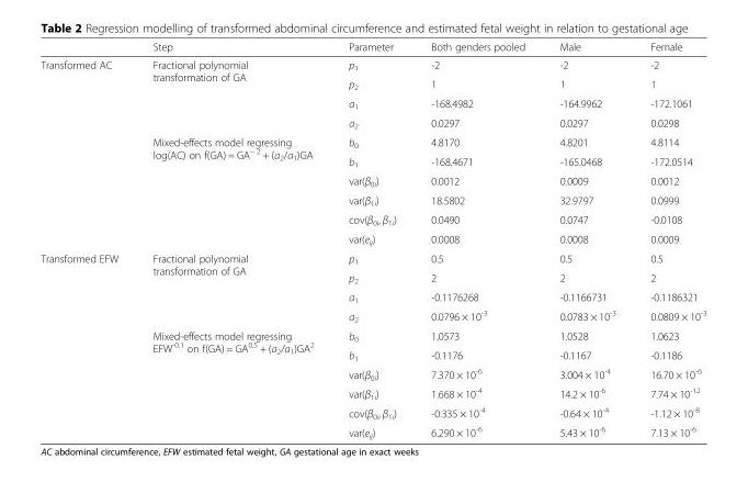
<table><thead><tr><td></td><td>Step</td><td>Parameter</td><td>Both genders pooled</td><td>Male</td><td>Female</td></tr></thead><tbody><tr><td rowspan="10">Transformed AC</td><td rowspan="4">Fractional polynomial transformation of GA</td><td>p<sub>1</sub></td><td>-2</td><td>-2</td><td>-2</td></tr><tr><td>p<sub>2</sub></td><td>1</td><td>1</td><td>1</td></tr><tr><td>a<sub>1</sub></td><td>-168.4982</td><td>-164.9962</td><td>-172.1061</td></tr><tr><td>a<sub>2</sub></td><td>0.0297</td><td>0.0297</td><td>0.0298</td></tr><tr><td rowspan="6">Mixed-effects model regressing log(AC) on f(GA) = GA<sup>− 2</sup> + (a<sub>2</sub>/a<sub>1</sub>)GA</td><td>b<sub>0</sub></td><td>4.8170</td><td>4.8201</td><td>4.8114</td></tr><tr><td>b<sub>1</sub></td><td>-168.4671</td><td>-165.0468</td><td>-172.0514</td></tr><tr><td>var(β<sub>0i</sub>)</td><td>0.0012</td><td>0.0009</td><td>0.0012</td></tr><tr><td>var(β<sub>1i</sub>)</td><td>18.5802</td><td>32.9797</td><td>0.0999</td></tr><tr><td>cov(β<sub>0i</sub>, β<sub>1i</sub>)</td><td>0.0490</td><td>0.0747</td><td>-0.0108</td></tr><tr><td>var(e<sub>ij</sub>)</td><td>0.0008</td><td>0.0008</td><td>0.0009</td></tr><tr><td rowspan="10">Transformed EFW</td><td rowspan="4">Fractional polynomial transformation of GA</td><td>p<sub>1</sub></td><td>0.5</td><td>0.5</td><td>0.5</td></tr><tr><td>p<sub>2</sub></td><td>2</td><td>2</td><td>2</td></tr><tr><td>a<sub>1</sub></td><td>-0.1176268</td><td>-0.1166731</td><td>-0.1186321</td></tr><tr><td>a<sub>2</sub></td><td>0.0796 × 10<sup>-3</sup></td><td>0.0783 × 10<sup>-3</sup></td><td>0.0809 × 10<sup>-3</sup></td></tr><tr><td rowspan="6">Mixed-effects model regressing EFW<sup>-0.1</sup> on f(GA) = GA<sup>0.5</sup> + (a<sub>2</sub>/a<sub>1</sub>)GA<sup>2</sup></td><td>b<sub>0</sub></td><td>1.0573</td><td>1.0528</td><td>1.0623</td></tr><tr><td>b<sub>1</sub></td><td>-0.1176</td><td>-0.1167</td><td>-0.1186</td></tr><tr><td>var(β<sub>0i</sub>)</td><td>7.370 × 10<sup>-6</sup></td><td>3.004 × 10<sup>-4</sup></td><td>16.70 × 10<sup>-6</sup></td></tr><tr><td>var(β<sub>1i</sub>)</td><td>1.668 × 10<sup>-4</sup></td><td>14.2 × 10<sup>-6</sup></td><td>7.74 × 10<sup>-12</sup></td></tr><tr><td>cov(β<sub>0i</sub>, β<sub>1i</sub>)</td><td>-0.335 × 10<sup>-4</sup></td><td>-0.64 × 10<sup>-4</sup></td><td>-1.12 × 10<sup>-8</sup></td></tr><tr><td>var(e<sub>ij</sub>)</td><td>6.290 × 10<sup>-6</sup></td><td>5.43 × 10<sup>-6</sup></td><td>7.13 × 10<sup>-6</sup></td></tr></tbody></table>